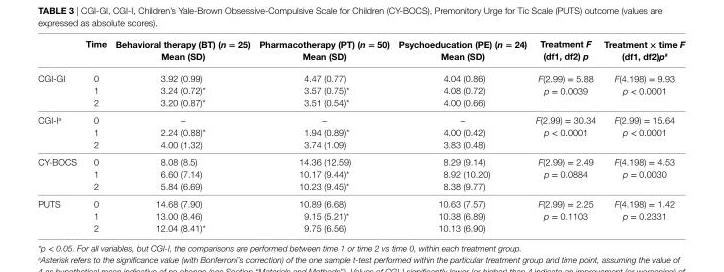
<table><thead><tr><td></td><td>Time</td><td>Behavioral therapy (BT) (n = 25) Mean (sD)</td><td>Pharmacotherapy (PT) (n = 50) Mean (sD)</td><td>Psychoeducation (Pe) (n = 24) Mean (sD)</td><td>Treatment F (df1, df2) p</td><td>Treatment × time F (df1, df2)p<sup>#</sup></td></tr></thead><tbody><tr><td>CGI-GI</td><td>0 1 2</td><td>3.92 (0.99) 3.24 (0.72)* 3.20 (0.87)*</td><td>4.47 (0.77) 3.57 (0.75)* 3.51 (0.54)*</td><td>4.04 (0.86) 4.08 (0.72) 4.00 (0.66)</td><td>F(2.99) = 5.88 p = 0.0039</td><td>F(4.198) = 9.93 p &lt; 0.0001</td></tr><tr><td>CGI-I<sup>a</sup></td><td>0 1 2</td><td>– 2.24 (0.88)* 4.00 (1.32)</td><td>– 1.94 (0.89)* 3.74 (1.09)</td><td>– 4.00 (0.42) 3.83 (0.48)</td><td>F(2.99) = 30.34 p &lt; 0.0001</td><td>F(2.99) = 15.64 p &lt; 0.0001</td></tr><tr><td>CY-BOCS</td><td>0 1 2</td><td>8.08 (8.5) 6.60 (7.14) 5.84 (6.69)</td><td>14.36 (12.59) 10.17 (9.44)* 10.23 (9.45)*</td><td>8.29 (9.14) 8.92 (10.20) 8.38 (9.77)</td><td>F(2.99) = 2.49 p = 0.0884</td><td>F(4.198) = 4.53 p = 0.0030</td></tr><tr><td>PUTS</td><td>0 1 2</td><td>14.68 (7.90) 13.00 (8.46) 12.04 (8.41)*</td><td>10.89 (6.68) 9.15 (5.21)* 9.75 (6.56)</td><td>10.63 (7.57) 10.38 (6.89) 10.13 (6.90)</td><td>F(2.99) = 2.25 p = 0.1103</td><td>F(4.198) = 1.42 p = 0.2331</td></tr></tbody></table>